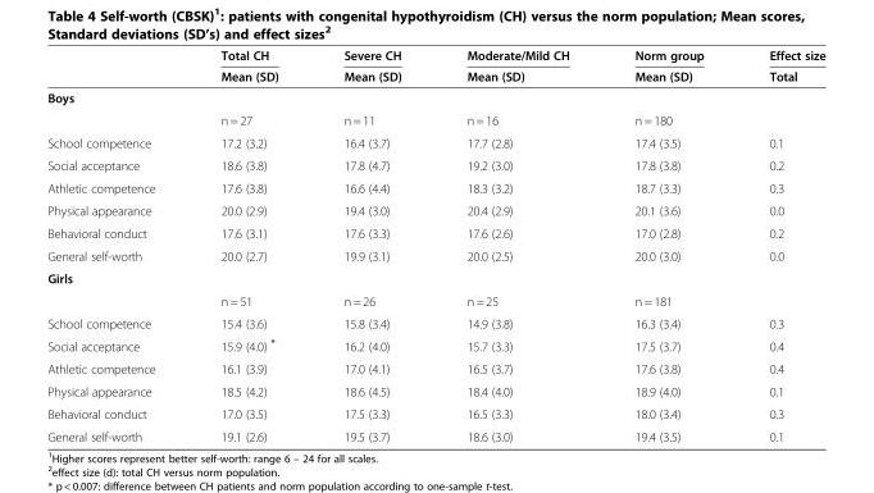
<table><thead><tr><td rowspan="2"></td><td rowspan="2">Total CH Mean (SD)</td><td rowspan="2">Severe CH Mean (SD)</td><td rowspan="2">Moderate/Mild CH Mean (SD)</td><td rowspan="2">Norm group Mean (SD)</td><td rowspan="2">Effect size Total</td></tr><tr></tr></thead><tbody><tr><td colspan="6">Boys</td></tr><tr><td></td><td>n = 27</td><td>n = 11</td><td>n = 16</td><td>n = 180</td><td></td></tr><tr><td>School competence</td><td>17.2 (3.2)</td><td>16.4 (3.7)</td><td>17.7 (2.8)</td><td>17.4 (3.5)</td><td>0.1</td></tr><tr><td>Social acceptance</td><td>18.6 (3.8)</td><td>17.8 (4.7)</td><td>19.2 (3.0)</td><td>17.8 (3.8)</td><td>0.2</td></tr><tr><td>Athletic competence</td><td>17.6 (3.8)</td><td>16.6 (4.4)</td><td>18.3 (3.2)</td><td>18.7 (3.3)</td><td>0.3</td></tr><tr><td>Physical appearance</td><td>20.0 (2.9)</td><td>19.4 (3.0)</td><td>20.4 (2.9)</td><td>20.1 (3.6)</td><td>0.0</td></tr><tr><td>Behavioral conduct</td><td>17.6 (3.1)</td><td>17.6 (3.3)</td><td>17.6 (2.6)</td><td>17.0 (2.8)</td><td>0.2</td></tr><tr><td>General self-worth</td><td>20.0 (2.7)</td><td>19.9 (3.1)</td><td>20.0 (2.5)</td><td>20.0 (3.0)</td><td>0.0</td></tr><tr><td colspan="6">Girls</td></tr><tr><td></td><td>n = 51</td><td>n = 26</td><td>n = 25</td><td>n = 181</td><td></td></tr><tr><td>School competence</td><td>15.4 (3.6)</td><td>15.8 (3.4)</td><td>14.9 (3.8)</td><td>16.3 (3.4)</td><td>0.3</td></tr><tr><td>Social acceptance</td><td>15.9 (4.0) *</td><td>16.2 (4.0)</td><td>15.7 (3.3)</td><td>17.5 (3.7)</td><td>0.4</td></tr><tr><td>Athletic competence</td><td>16.1 (3.9)</td><td>17.0 (4.1)</td><td>16.5 (3.7)</td><td>17.6 (3.8)</td><td>0.4</td></tr><tr><td>Physical appearance</td><td>18.5 (4.2)</td><td>18.6 (4.5)</td><td>18.4 (4.0)</td><td>18.9 (4.0)</td><td>0.1</td></tr><tr><td>Behavioral conduct</td><td>17.0 (3.5)</td><td>17.5 (3.3)</td><td>16.5 (3.3)</td><td>18.0 (3.4)</td><td>0.3</td></tr><tr><td>General self-worth</td><td>19.1 (2.6)</td><td>19.5 (3.7)</td><td>18.6 (3.0)</td><td>19.4 (3.5)</td><td>0.1</td></tr></tbody></table>